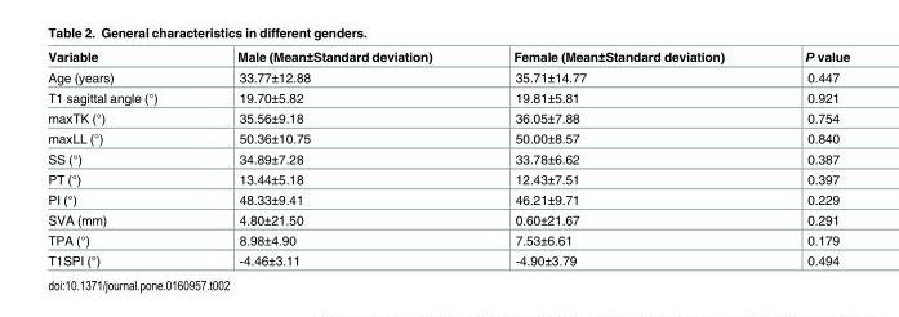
<table><thead><tr><td>Variable</td><td>Male (Mean±Standard deviation)</td><td>Female (Mean±Standard deviation)</td><td>P value</td></tr></thead><tbody><tr><td>Age (years)</td><td>33.77±12.88</td><td>35.71±14.77</td><td>0.447</td></tr><tr><td>T1 sagittal angle (°)</td><td>19.70±5.82</td><td>19.81±5.81</td><td>0.921</td></tr><tr><td>maxTK (°)</td><td>35.56±9.18</td><td>36.05±7.88</td><td>0.754</td></tr><tr><td>maxLL (°)</td><td>50.36±10.75</td><td>50.00±8.57</td><td>0.840</td></tr><tr><td>SS (°)</td><td>34.89±7.28</td><td>33.78±6.62</td><td>0.387</td></tr><tr><td>PT (°)</td><td>13.44±5.18</td><td>12.43±7.51</td><td>0.397</td></tr><tr><td>PI (°)</td><td>48.33±9.41</td><td>46.21±9.71</td><td>0.229</td></tr><tr><td>SVA (mm)</td><td>4.80±21.50</td><td>0.60±21.67</td><td>0.291</td></tr><tr><td>TPA (°)</td><td>8.98±4.90</td><td>7.53±6.61</td><td>0.179</td></tr><tr><td>T1SPI (°)</td><td>-4.46±3.11</td><td>-4.90±3.79</td><td>0.494</td></tr></tbody></table>